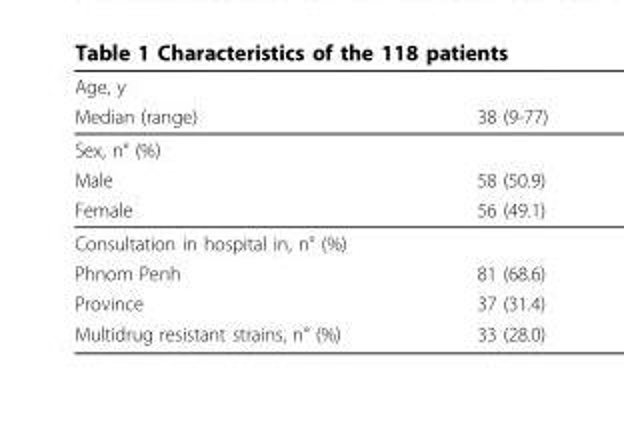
<table><thead><tr><td rowspan="2">Age, y Median (range)</td><td rowspan="2">38 (9-77)</td></tr><tr></tr></thead><tbody><tr><td colspan="2">Sex, n° (%)</td></tr><tr><td>Male</td><td>58 (50.9)</td></tr><tr><td>Female</td><td>56 (49.1)</td></tr><tr><td colspan="2">Consultation in hospital in, n° (%)</td></tr><tr><td>Phnom Penh</td><td>81 (68.6)</td></tr><tr><td>Province</td><td>37 (31.4)</td></tr><tr><td>Multidrug resistant strains, n° (%)</td><td>33 (28.0)</td></tr></tbody></table>